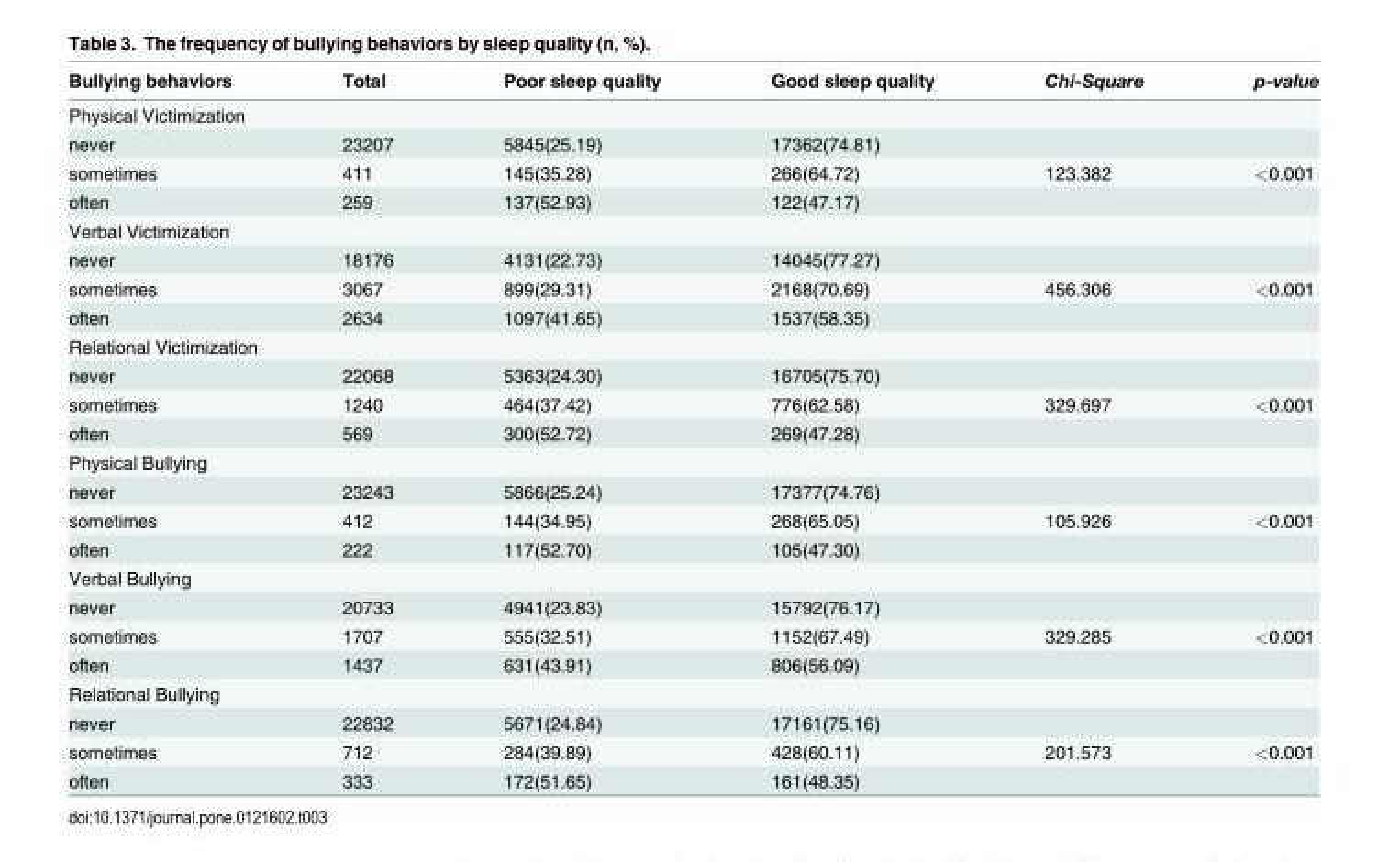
<table><thead><tr><td>Bullying behaviors</td><td>Total</td><td>Poor sleep quality</td><td>Good sleep quality</td><td>Chi-Square</td><td>p-value</td></tr></thead><tbody><tr><td colspan="6">Physical Victimization</td></tr><tr><td>never</td><td>23207</td><td>5845(25.19)</td><td>17362(74.81)</td><td></td><td></td></tr><tr><td>sometimes</td><td>411</td><td>145(35.28)</td><td>266(64.72)</td><td>123.382</td><td>&lt;0.001</td></tr><tr><td>often</td><td>259</td><td>137(52.93)</td><td>122(47.17)</td><td></td><td></td></tr><tr><td colspan="6">Verbal Victimization</td></tr><tr><td>never</td><td>18176</td><td>4131(22.73)</td><td>14045(77.27)</td><td></td><td></td></tr><tr><td>sometimes</td><td>3067</td><td>899(29.31)</td><td>2168(70.69)</td><td>456.306</td><td>&lt;0.001</td></tr><tr><td>often</td><td>2634</td><td>1097(41.65)</td><td>1537(58.35)</td><td></td><td></td></tr><tr><td colspan="6">Relational Victimization</td></tr><tr><td>never</td><td>22068</td><td>5363(24.30)</td><td>16705(75.70)</td><td></td><td></td></tr><tr><td>sometimes</td><td>1240</td><td>464(37.42)</td><td>776(62.58)</td><td>329.697</td><td>&lt;0.001</td></tr><tr><td>often</td><td>569</td><td>300(52.72)</td><td>269(47.28)</td><td></td><td></td></tr><tr><td colspan="6">Physical Bullying</td></tr><tr><td>never</td><td>23243</td><td>5866(25.24)</td><td>17377(74.76)</td><td></td><td></td></tr><tr><td>sometimes</td><td>412</td><td>144(34.95)</td><td>268(65.05)</td><td>105.926</td><td>&lt;0.001</td></tr><tr><td>often</td><td>222</td><td>117(52.70)</td><td>105(47.30)</td><td></td><td></td></tr><tr><td colspan="6">Verbal Bullying</td></tr><tr><td>never</td><td>20733</td><td>4941(23.83)</td><td>15792(76.17)</td><td></td><td></td></tr><tr><td>sometimes</td><td>1707</td><td>555(32.51)</td><td>1152(67.49)</td><td>329.285</td><td>&lt;0.001</td></tr><tr><td>often</td><td>1437</td><td>631(43.91)</td><td>806(56.09)</td><td></td><td></td></tr><tr><td colspan="6">Relational Bullying</td></tr><tr><td>never</td><td>22832</td><td>5671(24.84)</td><td>17161(75.16)</td><td></td><td></td></tr><tr><td>sometimes</td><td>712</td><td>284(39.89)</td><td>428(60.11)</td><td>201.573</td><td>&lt;0.001</td></tr><tr><td>often</td><td>333</td><td>172(51.65)</td><td>161(48.35)</td><td></td><td></td></tr></tbody></table>